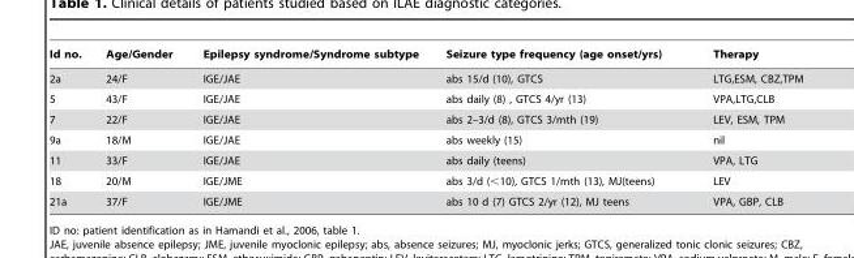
<table><thead><tr><td>Id no.</td><td>Age/Gender</td><td>Epilepsy syndrome/Syndrome subtype</td><td>Seizure type frequency (age onset/yrs)</td><td>Therapy</td></tr></thead><tbody><tr><td>2a</td><td>24/F</td><td>IGE/JAE</td><td>abs 15/d (10), GTCS</td><td>LTG,ESM, CBZ,TPM</td></tr><tr><td>5</td><td>43/F</td><td>IGE/JAE</td><td>abs daily (8) , GTCS 4/yr (13)</td><td>VPA,LTG,CLB</td></tr><tr><td>7</td><td>22/F</td><td>IGE/JAE</td><td>abs 2–3/d (8), GTCS 3/mth (19)</td><td>LEV, ESM, TPM</td></tr><tr><td>9a</td><td>18/M</td><td>IGE/JAE</td><td>abs weekly (15)</td><td>nil</td></tr><tr><td>11</td><td>33/F</td><td>IGE/JAE</td><td>abs daily (teens)</td><td>VPA, LTG</td></tr><tr><td>18</td><td>20/M</td><td>IGE/JME</td><td>abs 3/d (&lt;10), GTCS 1/mth (13), MJ(teens)</td><td>LEV</td></tr><tr><td>21a</td><td>37/F</td><td>IGE/JME</td><td>abs 10 d (7) GTCS 2/yr (12), MJ teens</td><td>VPA, GBP, CLB</td></tr></tbody></table>